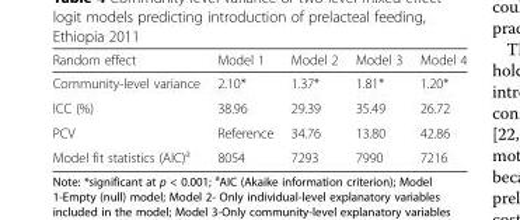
<table><thead><tr><td>Random effect</td><td>Model 1</td><td>Model 2</td><td>Model 3</td><td>Model 4</td></tr></thead><tbody><tr><td>Community-level variance</td><td>2.10*</td><td>1.37*</td><td>1.81*</td><td>1.20*</td></tr><tr><td>ICC (%)</td><td>38.96</td><td>29.39</td><td>35.49</td><td>26.72</td></tr><tr><td>PCV</td><td>Reference</td><td>34.76</td><td>13.80</td><td>42.86</td></tr><tr><td>Model fit statistics (AIC)<sup>a</sup></td><td>8054</td><td>7293</td><td>7990</td><td>7216</td></tr></tbody></table>